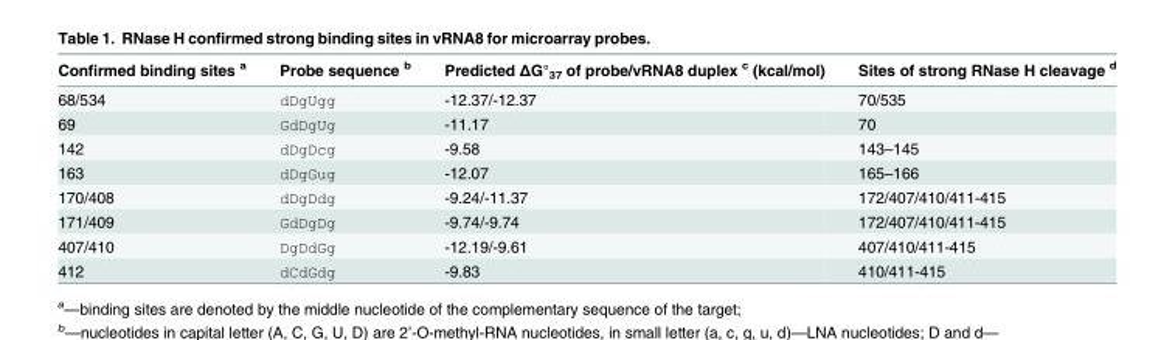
<table><thead><tr><td>Confirmed binding sites <sup>a</sup></td><td>Probe sequence <sup>b</sup></td><td>Predicted ΔG°<sub>37</sub> of probe/vRNA8 duplex <sup>c</sup> (kcal/mol)</td><td>Sites of strong RNase H cleavage <sup>d</sup></td></tr></thead><tbody><tr><td>68/534</td><td>dDgUgg</td><td>-12.37/-12.37</td><td>70/535</td></tr><tr><td>69</td><td>GdDgUg</td><td>-11.17</td><td>70</td></tr><tr><td>142</td><td>dDgDcg</td><td>-9.58</td><td>143–145</td></tr><tr><td>163</td><td>dDgGug</td><td>-12.07</td><td>165–166</td></tr><tr><td>170/408</td><td>dDgDdg</td><td>-9.24/-11.37</td><td>172/407/410/411-415</td></tr><tr><td>171/409</td><td>GdDgDg</td><td>-9.74/-9.74</td><td>172/407/410/411-415</td></tr><tr><td>407/410</td><td>DgDdGg</td><td>-12.19/-9.61</td><td>407/410/411-415</td></tr><tr><td>412</td><td>dCdGdg</td><td>-9.83</td><td>410/411-415</td></tr></tbody></table>